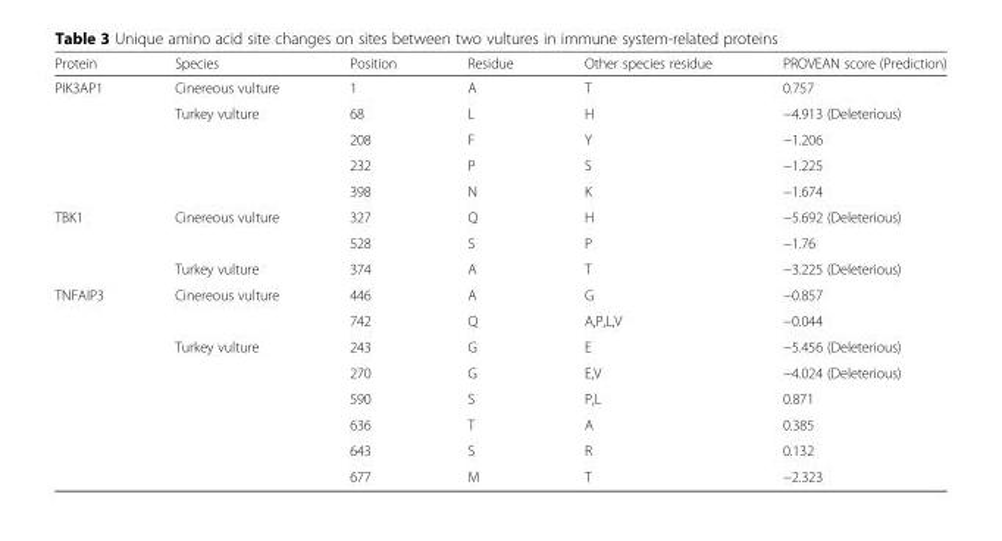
<table><thead><tr><td>Protein</td><td>Species</td><td>Position</td><td>Residue</td><td>Other species residue</td><td>PROVEAN score (Prediction)</td></tr></thead><tbody><tr><td rowspan="5">PIK3AP1</td><td>Cinereous vulture</td><td>1</td><td>A</td><td>T</td><td>0.757</td></tr><tr><td rowspan="4">Turkey vulture</td><td>68</td><td>L</td><td>H</td><td>−4.913 (Deleterious)</td></tr><tr><td>208</td><td>F</td><td>Y</td><td>−1.206</td></tr><tr><td>232</td><td>P</td><td>S</td><td>−1.225</td></tr><tr><td>398</td><td>N</td><td>K</td><td>−1.674</td></tr><tr><td rowspan="3">TBK1</td><td rowspan="2">Cinereous vulture</td><td>327</td><td>Q</td><td>H</td><td>−5.692 (Deleterious)</td></tr><tr><td>528</td><td>S</td><td>P</td><td>−1.76</td></tr><tr><td>Turkey vulture</td><td>374</td><td>A</td><td>T</td><td>−3.225 (Deleterious)</td></tr><tr><td rowspan="8">TNFAIP3</td><td rowspan="2">Cinereous vulture</td><td>446</td><td>A</td><td>G</td><td>−0.857</td></tr><tr><td>742</td><td>Q</td><td>A,P,L,V</td><td>−0.044</td></tr><tr><td rowspan="6">Turkey vulture</td><td>243</td><td>G</td><td>E</td><td>−5.456 (Deleterious)</td></tr><tr><td>270</td><td>G</td><td>E,V</td><td>−4.024 (Deleterious)</td></tr><tr><td>590</td><td>S</td><td>P,L</td><td>0.871</td></tr><tr><td>636</td><td>T</td><td>A</td><td>0.385</td></tr><tr><td>643</td><td>S</td><td>R</td><td>0.132</td></tr><tr><td>677</td><td>M</td><td>T</td><td>−2.323</td></tr></tbody></table>